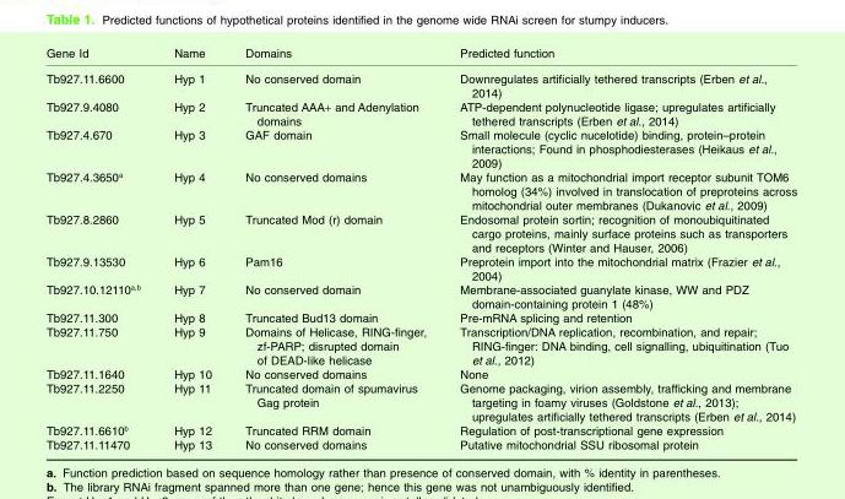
<table><thead><tr><td>Gene Id</td><td>Name</td><td>Domains</td><td>Predicted function</td></tr></thead><tbody><tr><td>Tb927.11.6600</td><td>Hyp 1</td><td>No conserved domain</td><td>Downregulates artificially tethered transcripts (Erben et al., 2014)</td></tr><tr><td>Tb927.9.4080</td><td>Hyp 2</td><td>Truncated AAA+ and Adenylation domains</td><td>ATP-dependent polynucleotide ligase; upregulates artificially tethered transcripts (Erben et al., 2014)</td></tr><tr><td>Tb927.4.670</td><td>Hyp 3</td><td>GAF domain</td><td>Small molecule (cyclic nucelotide) binding, protein–protein interactions; Found in phosphodiesterases (Heikaus et al., 2009)</td></tr><tr><td>Tb927.4.3650<sup>a</sup></td><td>Hyp 4</td><td>No conserved domains</td><td>May function as a mitochondrial import receptor subunit TOM6 homolog (34%) involved in translocation of preproteins across mitochondrial outer membranes (Dukanovic et al., 2009)</td></tr><tr><td>Tb927.8.2860</td><td>Hyp 5</td><td>Truncated Mod (r) domain</td><td>Endosomal protein sortin; recognition of monoubiquitinated cargo proteins, mainly surface proteins such as transporters and receptors (Winter and Hauser, 2006)</td></tr><tr><td>Tb927.9.13530</td><td>Hyp 6</td><td>Pam16</td><td>Preprotein import into the mitochondrial matrix (Frazier et al., 2004)</td></tr><tr><td>Tb927.10.12110<sup>a</sup>,<sup>b</sup></td><td>Hyp 7</td><td>No conserved domain</td><td>Membrane-associated guanylate kinase, WW and PDZ domain-containing protein 1 (48%)</td></tr><tr><td>Tb927.11.300</td><td>Hyp 8</td><td>Truncated Bud13 domain</td><td>Pre-mRNA splicing and retention</td></tr><tr><td>Tb927.11.750</td><td>Hyp 9</td><td>Domains of Helicase, RING-finger, zf-PARP; disrupted domain of DEAD-like helicase</td><td>Transcription/DNA replication, recombination, and repair; RING-finger: DNA binding, cell signalling, ubiquitination (Tuo et al., 2012)</td></tr><tr><td>Tb927.11.1640</td><td>Hyp 10</td><td>No conserved domains</td><td>None</td></tr><tr><td>Tb927.11.2250</td><td>Hyp 11</td><td>Truncated domain of spumavirus Gag protein</td><td>Genome packaging, virion assembly, trafficking and membrane targeting in foamy viruses (Goldstone et al., 2013); upregulates artificially tethered transcripts (Erben et al., 2014)</td></tr><tr><td>Tb927.11.6610<sup>b</sup></td><td>Hyp 12</td><td>Truncated RRM domain</td><td>Regulation of post-transcriptional gene expression</td></tr><tr><td>Tb927.11.11470</td><td>Hyp 13</td><td>No conserved domains</td><td>Putative mitochondrial SSU ribosomal protein</td></tr></tbody></table>